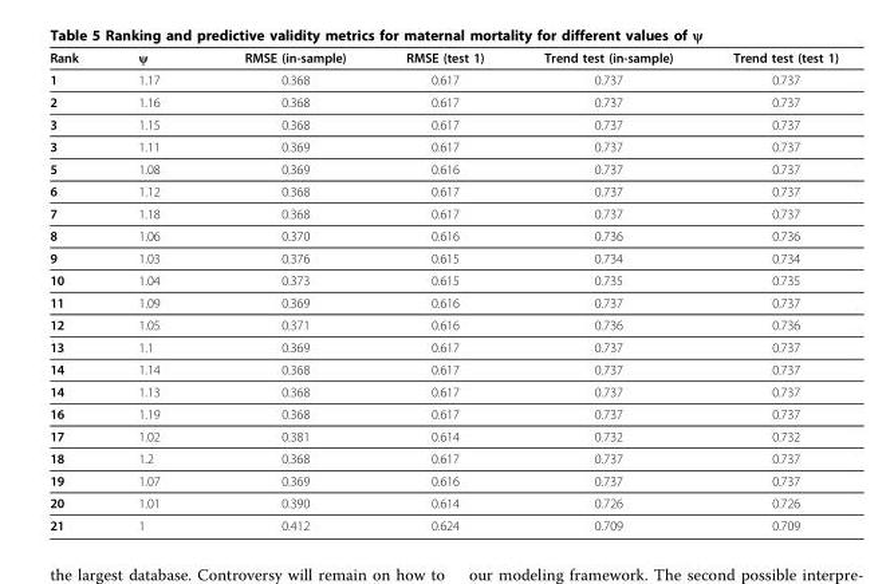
<table><thead><tr><td>Rank</td><td>ψ</td><td>RMSE (in-sample)</td><td>RMSE (test 1)</td><td>Trend test (in-sample)</td><td>Trend test (test 1)</td></tr></thead><tbody><tr><td>1</td><td>1.17</td><td>0.368</td><td>0.617</td><td>0.737</td><td>0.737</td></tr><tr><td>2</td><td>1.16</td><td>0.368</td><td>0.617</td><td>0.737</td><td>0.737</td></tr><tr><td>3</td><td>1.15</td><td>0.368</td><td>0.617</td><td>0.737</td><td>0.737</td></tr><tr><td>3</td><td>1.11</td><td>0.369</td><td>0.617</td><td>0.737</td><td>0.737</td></tr><tr><td>5</td><td>1.08</td><td>0.369</td><td>0.616</td><td>0.737</td><td>0.737</td></tr><tr><td>6</td><td>1.12</td><td>0.368</td><td>0.617</td><td>0.737</td><td>0.737</td></tr><tr><td>7</td><td>1.18</td><td>0.368</td><td>0.617</td><td>0.737</td><td>0.737</td></tr><tr><td>8</td><td>1.06</td><td>0.370</td><td>0.616</td><td>0.736</td><td>0.736</td></tr><tr><td>9</td><td>1.03</td><td>0.376</td><td>0.615</td><td>0.734</td><td>0.734</td></tr><tr><td>10</td><td>1.04</td><td>0.373</td><td>0.615</td><td>0.735</td><td>0.735</td></tr><tr><td>11</td><td>1.09</td><td>0.369</td><td>0.616</td><td>0.737</td><td>0.737</td></tr><tr><td>12</td><td>1.05</td><td>0.371</td><td>0.616</td><td>0.736</td><td>0.736</td></tr><tr><td>13</td><td>1.1</td><td>0.369</td><td>0.617</td><td>0.737</td><td>0.737</td></tr><tr><td>14</td><td>1.14</td><td>0.368</td><td>0.617</td><td>0.737</td><td>0.737</td></tr><tr><td>14</td><td>1.13</td><td>0.368</td><td>0.617</td><td>0.737</td><td>0.737</td></tr><tr><td>16</td><td>1.19</td><td>0.368</td><td>0.617</td><td>0.737</td><td>0.737</td></tr><tr><td>17</td><td>1.02</td><td>0.381</td><td>0.614</td><td>0.732</td><td>0.732</td></tr><tr><td>18</td><td>1.2</td><td>0.368</td><td>0.617</td><td>0.737</td><td>0.737</td></tr><tr><td>19</td><td>1.07</td><td>0.369</td><td>0.616</td><td>0.737</td><td>0.737</td></tr><tr><td>20</td><td>1.01</td><td>0.390</td><td>0.614</td><td>0.726</td><td>0.726</td></tr><tr><td>21</td><td>1</td><td>0.412</td><td>0.624</td><td>0.709</td><td>0.709</td></tr></tbody></table>